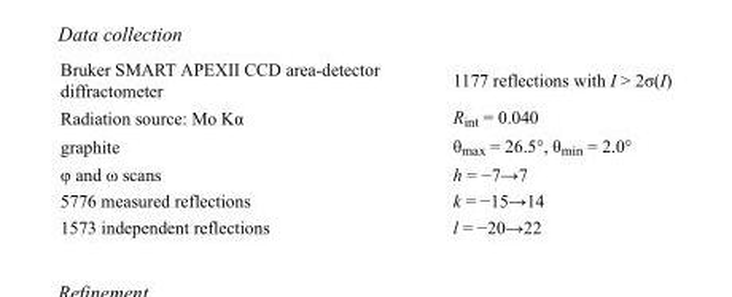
<table><tbody><tr><td>Bruker SMART APEXII CCD area-detector diffractometer</td><td>1177 reflections with I &gt; 2σ(I)</td></tr><tr><td>Radiation source: Mo Kα</td><td>R<sub>int</sub> = 0.040</td></tr><tr><td>graphite</td><td>θ<sub>max</sub> = 26.5°, θ<sub>min</sub> = 2.0°</td></tr><tr><td>φ and ω scans</td><td>h = −7→7</td></tr><tr><td>5776 measured reflections</td><td>k = −15→14</td></tr><tr><td>1573 independent reflections</td><td>l = −20→22</td></tr></tbody></table>